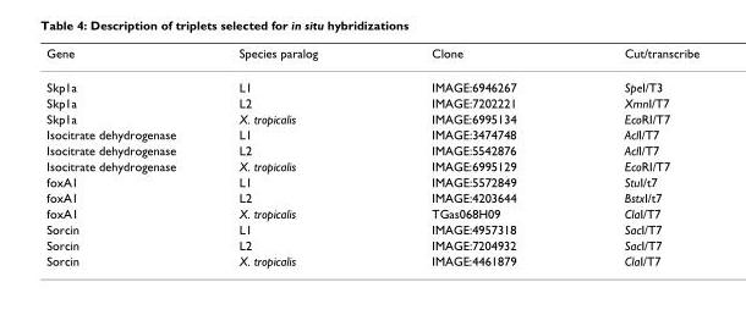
<table><thead><tr><td>Gene</td><td>Species paralog</td><td>Clone</td><td>Cut/transcribe</td></tr></thead><tbody><tr><td>Skp1a</td><td>L1</td><td>IMAGE:6946267</td><td>SpeI/T3</td></tr><tr><td>Skp1a</td><td>L2</td><td>IMAGE:7202221</td><td>XmnI/T7</td></tr><tr><td>Skp1a</td><td>X. tropicalis</td><td>IMAGE:6995134</td><td>EcoRI/T7</td></tr><tr><td>Isocitrate dehydrogenase</td><td>L1</td><td>IMAGE:3474748</td><td>AclI/T7</td></tr><tr><td>Isocitrate dehydrogenase</td><td>L2</td><td>IMAGE:5542876</td><td>AclI/T7</td></tr><tr><td>Isocitrate dehydrogenase</td><td>X. tropicalis</td><td>IMAGE:6995129</td><td>EcoRI/T7</td></tr><tr><td>foxA1</td><td>L1</td><td>IMAGE:5572849</td><td>StuI/t7</td></tr><tr><td>foxA1</td><td>L2</td><td>IMAGE:4203644</td><td>BstxI/t7</td></tr><tr><td>foxA1</td><td>X. tropicalis</td><td>TGas068H09</td><td>ClaI/T7</td></tr><tr><td>Sorcin</td><td>L1</td><td>IMAGE:4957318</td><td>SacI/T7</td></tr><tr><td>Sorcin</td><td>L2</td><td>IMAGE:7204932</td><td>SacI/T7</td></tr><tr><td>Sorcin</td><td>X. tropicalis</td><td>IMAGE:4461879</td><td>ClaI/T7</td></tr></tbody></table>